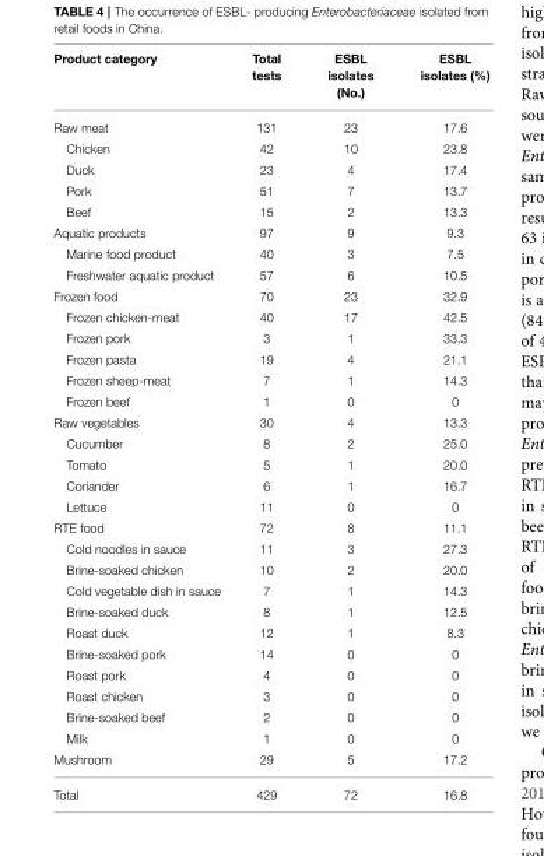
<table><thead><tr><td>Product category</td><td>Total tests</td><td>ESBL isolates (No.)</td><td>ESBL isolates (%)</td></tr></thead><tbody><tr><td>Raw meat</td><td>131</td><td>23</td><td>17.6</td></tr><tr><td>Chicken</td><td>42</td><td>10</td><td>23.8</td></tr><tr><td>Duck</td><td>23</td><td>4</td><td>17.4</td></tr><tr><td>Pork</td><td>51</td><td>7</td><td>13.7</td></tr><tr><td>Beef</td><td>15</td><td>2</td><td>13.3</td></tr><tr><td>Aquatic products</td><td>97</td><td>9</td><td>9.3</td></tr><tr><td>Marine food product</td><td>40</td><td>3</td><td>7.5</td></tr><tr><td>Freshwater aquatic product</td><td>57</td><td>6</td><td>10.5</td></tr><tr><td>Frozen food</td><td>70</td><td>23</td><td>32.9</td></tr><tr><td>Frozen chicken-meat</td><td>40</td><td>17</td><td>42.5</td></tr><tr><td>Frozen pork</td><td>3</td><td>1</td><td>33.3</td></tr><tr><td>Frozen pasta</td><td>19</td><td>4</td><td>21.1</td></tr><tr><td>Frozen sheep-meat</td><td>7</td><td>1</td><td>14.3</td></tr><tr><td>Frozen beef</td><td>1</td><td>0</td><td>0</td></tr><tr><td>Raw vegetables</td><td>30</td><td>4</td><td>13.3</td></tr><tr><td>Cucumber</td><td>8</td><td>2</td><td>25.0</td></tr><tr><td>Tomato</td><td>5</td><td>1</td><td>20.0</td></tr><tr><td>Coriander</td><td>6</td><td>1</td><td>16.7</td></tr><tr><td>Lettuce</td><td>11</td><td>0</td><td>0</td></tr><tr><td>RTE food</td><td>72</td><td>8</td><td>11.1</td></tr><tr><td>Cold noodles in sauce</td><td>11</td><td>3</td><td>27.3</td></tr><tr><td>Brine-soaked chicken</td><td>10</td><td>2</td><td>20.0</td></tr><tr><td>Cold vegetable dish in sauce</td><td>7</td><td>1</td><td>14.3</td></tr><tr><td>Brine-soaked duck</td><td>8</td><td>1</td><td>12.5</td></tr><tr><td>Roast duck</td><td>12</td><td>1</td><td>8.3</td></tr><tr><td>Brine-soaked pork</td><td>14</td><td>0</td><td>0</td></tr><tr><td>Roast pork</td><td>4</td><td>0</td><td>0</td></tr><tr><td>Roast chicken</td><td>3</td><td>0</td><td>0</td></tr><tr><td>Brine-soaked beef</td><td>2</td><td>0</td><td>0</td></tr><tr><td>Milk</td><td>1</td><td>0</td><td>0</td></tr><tr><td>Mushroom</td><td>29</td><td>5</td><td>17.2</td></tr><tr><td>Total</td><td>429</td><td>72</td><td>16.8</td></tr></tbody></table>